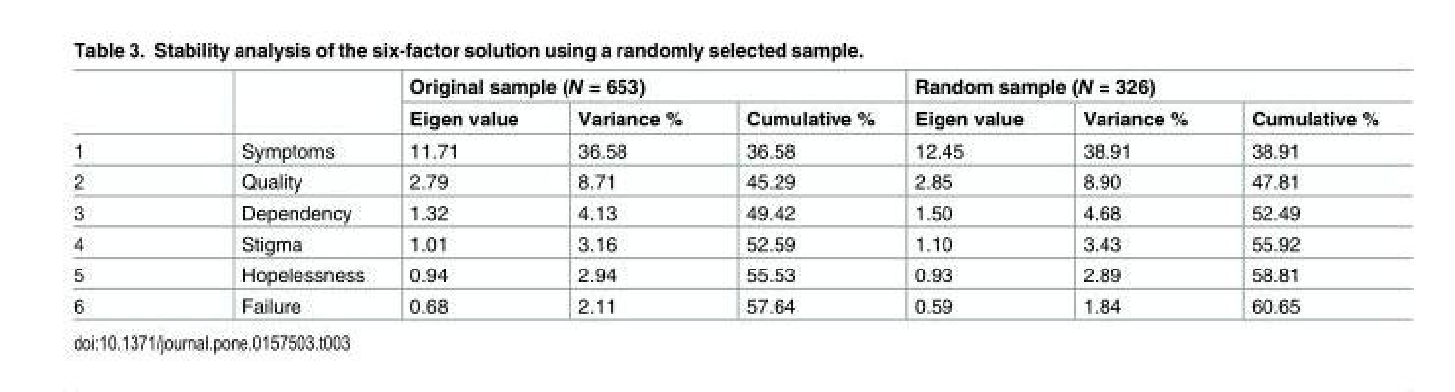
<table><thead><tr><td rowspan="2"></td><td rowspan="2"></td><td colspan="3">Original sample (N = 653)</td><td colspan="3">Random sample (N = 326)</td></tr><tr><td>Eigen value</td><td>Variance %</td><td>Cumulative %</td><td>Eigen value</td><td>Variance %</td><td>Cumulative %</td></tr></thead><tbody><tr><td>1</td><td>Symptoms</td><td>11.71</td><td>36.58</td><td>36.58</td><td>12.45</td><td>38.91</td><td>38.91</td></tr><tr><td>2</td><td>Quality</td><td>2.79</td><td>8.71</td><td>45.29</td><td>2.85</td><td>8.90</td><td>47.81</td></tr><tr><td>3</td><td>Dependency</td><td>1.32</td><td>4.13</td><td>49.42</td><td>1.50</td><td>4.68</td><td>52.49</td></tr><tr><td>4</td><td>Stigma</td><td>1.01</td><td>3.16</td><td>52.59</td><td>1.10</td><td>3.43</td><td>55.92</td></tr><tr><td>5</td><td>Hopelessness</td><td>0.94</td><td>2.94</td><td>55.53</td><td>0.93</td><td>2.89</td><td>58.81</td></tr><tr><td>6</td><td>Failure</td><td>0.68</td><td>2.11</td><td>57.64</td><td>0.59</td><td>1.84</td><td>60.65</td></tr></tbody></table>